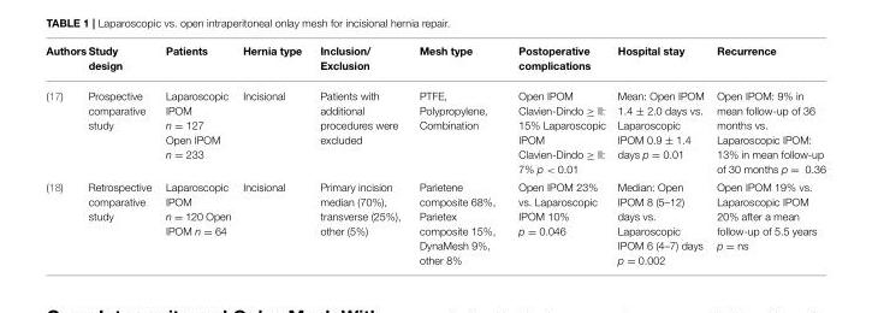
<table><thead><tr><td>Authors</td><td>Study design</td><td>Patients</td><td>Hernia type</td><td>Inclusion/ Exclusion</td><td>Mesh type</td><td>Postoperative complications</td><td>Hospital stay</td><td>Recurrence</td></tr></thead><tbody><tr><td>(17)</td><td>Prospective comparative study</td><td>Laparoscopic IPOM n = 127 Open IPOM n = 233</td><td>Incisional</td><td>Patients with additional procedures were excluded</td><td>PTFE, Polypropylene, Combination</td><td>Open IPOM Clavien-Dindo ≥ II: 15% Laparoscopic IPOM Clavien-Dindo ≥ II: 7% p &lt; 0.01</td><td>Mean: Open IPOM 1.4 ± 2.0 days vs. Laparoscopic IPOM 0.9 ± 1.4 days p = 0.01</td><td>Open IPOM: 9% in mean follow-up of 36 months vs. Laparoscopic IPOM: 13% in mean follow-up of 30 months p = 0.36</td></tr><tr><td>(18)</td><td>Retrospective comparative study</td><td>Laparoscopic IPOM n = 120 Open IPOM n = 64</td><td>Incisional</td><td>Primary incision median (70%), transverse (25%), other (5%)</td><td>Parietene composite 68%, Parietex composite 15%, DynaMesh 9%, other 8%</td><td>Open IPOM 23% vs. Laparoscopic IPOM 10% p = 0.046</td><td>Median: Open IPOM 8 (5–12) days vs. Laparoscopic IPOM 6 (4–7) days p = 0.002</td><td>Open IPOM 19% vs. Laparoscopic IPOM 20% after a mean follow-up of 5.5 years p = ns</td></tr></tbody></table>